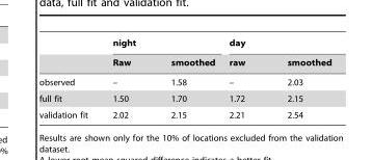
<table><thead><tr><td rowspan="2"></td><td colspan="2">night</td><td colspan="2">day</td></tr><tr><td>Raw</td><td>smoothed</td><td>raw</td><td>smoothed</td></tr></thead><tbody><tr><td>observed</td><td>–</td><td>1.58</td><td>–</td><td>2.03</td></tr><tr><td>full fit</td><td>1.50</td><td>1.70</td><td>1.72</td><td>2.15</td></tr><tr><td>validation fit</td><td>2.02</td><td>2.15</td><td>2.21</td><td>2.54</td></tr></tbody></table>